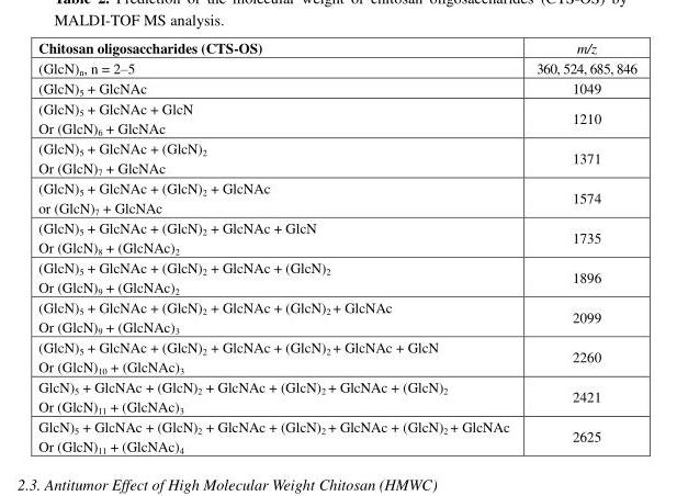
<table><thead><tr><td>Chitosan oligosaccharides (CTS-OS)</td><td>m/z</td></tr></thead><tbody><tr><td>(GlcN)<sub>n</sub>, n = 2–5</td><td>360, 524, 685, 846</td></tr><tr><td>(GlcN)<sub>5</sub> + GlcNAc</td><td>1049</td></tr><tr><td>(GlcN)<sub>5</sub> + GlcNAc + GlcN Or (GlcN)<sub>6</sub> + GlcNAc</td><td>1210</td></tr><tr><td>(GlcN)<sub>5</sub> + GlcNAc + (GlcN)<sub>2</sub> Or (GlcN)<sub>7</sub> + GlcNAc</td><td>1371</td></tr><tr><td>(GlcN)<sub>5</sub> + GlcNAc + (GlcN)<sub>2</sub> + GlcNAc or (GlcN)<sub>7</sub> + GlcNAc</td><td>1574</td></tr><tr><td>(GlcN)<sub>5</sub> + GlcNAc + (GlcN)<sub>2</sub> + GlcNAc + GlcN Or (GlcN)<sub>8</sub> + (GlcNAc)<sub>2</sub></td><td>1735</td></tr><tr><td>(GlcN)<sub>5</sub> + GlcNAc + (GlcN)<sub>2</sub> + GlcNAc + (GlcN)<sub>2</sub> Or (GlcN)<sub>9</sub> + (GlcNAc)<sub>2</sub></td><td>1896</td></tr><tr><td>(GlcN)<sub>5</sub> + GlcNAc + (GlcN)<sub>2</sub> + GlcNAc + (GlcN)<sub>2</sub> + GlcNAc Or (GlcN)<sub>9</sub> + (GlcNAc)<sub>3</sub></td><td>2099</td></tr><tr><td>(GlcN)<sub>5</sub> + GlcNAc + (GlcN)<sub>2</sub> + GlcNAc + (GlcN)<sub>2</sub> + GlcNAc + GlcN Or (GlcN)<sub>10</sub> + (GlcNAc)<sub>3</sub></td><td>2260</td></tr><tr><td>GlcN)<sub>5</sub> + GlcNAc + (GlcN)<sub>2</sub> + GlcNAc + (GlcN)<sub>2</sub> + GlcNAc + (GlcN)<sub>2</sub> Or (GlcN)<sub>11</sub> + (GlcNAc)<sub>3</sub></td><td>2421</td></tr><tr><td>GlcN)<sub>5</sub> + GlcNAc + (GlcN)<sub>2</sub> + GlcNAc + (GlcN)<sub>2</sub> + GlcNAc + (GlcN)<sub>2</sub> + GlcNAc Or (GlcN)<sub>11</sub> + (GlcNAc)<sub>4</sub></td><td>2625</td></tr></tbody></table>